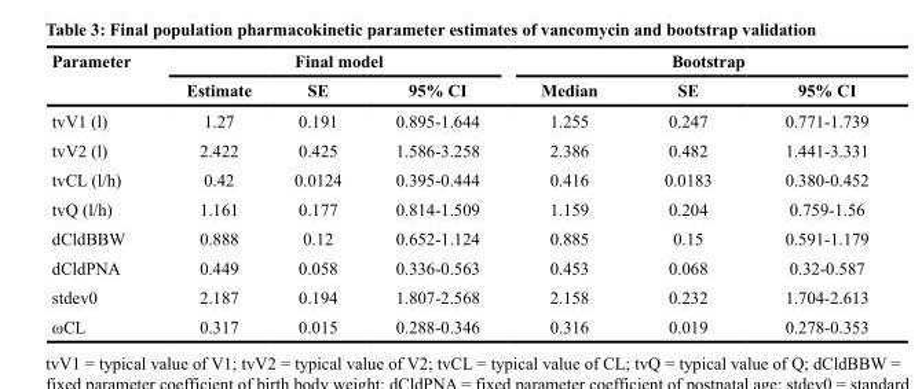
<table><thead><tr><td rowspan="2">Parameter</td><td colspan="3">Final model</td><td colspan="3">Bootstrap</td></tr><tr><td>Estimate</td><td>SE</td><td>95% CI</td><td>Median</td><td>SE</td><td>95% CI</td></tr></thead><tbody><tr><td>tvV1 (l)</td><td>1.27</td><td>0.191</td><td>0.895-1.644</td><td>1.255</td><td>0.247</td><td>0.771-1.739</td></tr><tr><td>tvV2 (l)</td><td>2.422</td><td>0.425</td><td>1.586-3.258</td><td>2.386</td><td>0.482</td><td>1.441-3.331</td></tr><tr><td>tvCL (l/h)</td><td>0.42</td><td>0.0124</td><td>0.395-0.444</td><td>0.416</td><td>0.0183</td><td>0.380-0.452</td></tr><tr><td>tvQ (l/h)</td><td>1.161</td><td>0.177</td><td>0.814-1.509</td><td>1.159</td><td>0.204</td><td>0.759-1.56</td></tr><tr><td>dCldBBW</td><td>0.888</td><td>0.12</td><td>0.652-1.124</td><td>0.885</td><td>0.15</td><td>0.591-1.179</td></tr><tr><td>dCldPNA</td><td>0.449</td><td>0.058</td><td>0.336-0.563</td><td>0.453</td><td>0.068</td><td>0.32-0.587</td></tr><tr><td>stdev0</td><td>2.187</td><td>0.194</td><td>1.807-2.568</td><td>2.158</td><td>0.232</td><td>1.704-2.613</td></tr><tr><td>ωCL</td><td>0.317</td><td>0.015</td><td>0.288-0.346</td><td>0.316</td><td>0.019</td><td>0.278-0.353</td></tr></tbody></table>